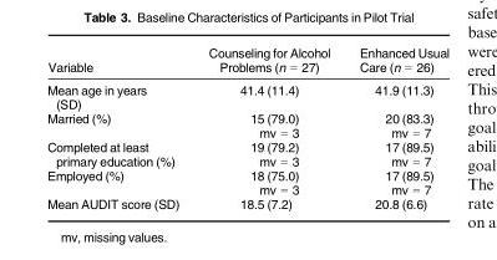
<table><thead><tr><td>Variable</td><td>Counseling for Alcohol Problems (n = 27)</td><td>Enhanced Usual Care (n = 26)</td></tr></thead><tbody><tr><td>Mean age in years (SD)</td><td>41.4 (11.4)</td><td>41.9 (11.3)</td></tr><tr><td>Married (%)</td><td>15 (79.0) mv = 3</td><td>20 (83.3) mv = 7</td></tr><tr><td>Completed at least primary education (%)</td><td>19 (79.2) mv = 3</td><td>17 (89.5) mv = 7</td></tr><tr><td>Employed (%)</td><td>18 (75.0) mv = 3</td><td>17 (89.5) mv = 7</td></tr><tr><td>Mean AUDIT score (SD)</td><td>18.5 (7.2)</td><td>20.8 (6.6)</td></tr></tbody></table>